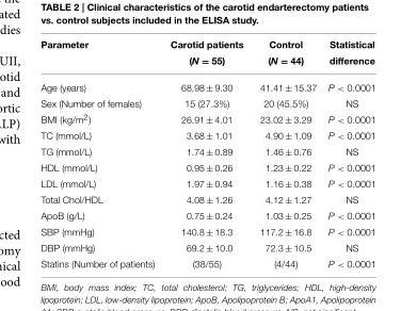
<table><thead><tr><td>Parameter</td><td>Carotid patients (N = 55)</td><td>Control (N = 44)</td><td>Statistical difference</td></tr></thead><tbody><tr><td>Age (years)</td><td>68.98 ± 9.30</td><td>41.41 ± 15.37</td><td>P &lt; 0.0001</td></tr><tr><td>Sex (Number of females)</td><td>15 (27.3%)</td><td>20 (45.5%)</td><td>NS</td></tr><tr><td>BMI (kg/m<sup>2</sup>)</td><td>26.91 ± 4.01</td><td>23.02 ± 3.29</td><td>P &lt; 0.0001</td></tr><tr><td>TC (mmol/L)</td><td>3.68 ± 1.01</td><td>4.90 ± 1.09</td><td>P &lt; 0.0001</td></tr><tr><td>TG (mmol/L)</td><td>1.74 ± 0.89</td><td>1.46 ± 0.76</td><td>NS</td></tr><tr><td>HDL (mmol/L)</td><td>0.95 ± 0.26</td><td>1.23 ± 0.22</td><td>P &lt; 0.0001</td></tr><tr><td>LDL (mmol/L)</td><td>1.97 ± 0.94</td><td>1.16 ± 0.38</td><td>P &lt; 0.0001</td></tr><tr><td>Total Chol/HDL</td><td>4.08 ± 1.26</td><td>4.12 ± 1.27</td><td>NS</td></tr><tr><td>ApoB (g/L)</td><td>0.75 ± 0.24</td><td>1.03 ± 0.25</td><td>P &lt; 0.0001</td></tr><tr><td>SBP (mmHg)</td><td>140.8 ± 18.3</td><td>117.2 ± 16.8</td><td>P &lt; 0.0001</td></tr><tr><td>DBP (mmHg)</td><td>69.2 ± 10.0</td><td>72.3 ± 10.5</td><td>NS</td></tr><tr><td>Statins (Number of patients)</td><td>(38/55)</td><td>(4/44)</td><td>P &lt; 0.0001</td></tr></tbody></table>